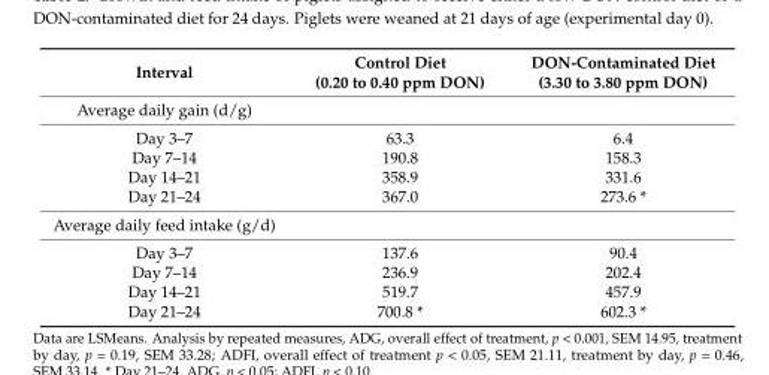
<table><thead><tr><td>Interval</td><td>Control Diet (0.20 to 0.40 ppm DON)</td><td>DON-Contaminated Diet (3.30 to 3.80 ppm DON)</td></tr></thead><tbody><tr><td colspan="3">Average daily gain (d/g)</td></tr><tr><td>Day 3–7</td><td>63.3</td><td>6.4</td></tr><tr><td>Day 7–14</td><td>190.8</td><td>158.3</td></tr><tr><td>Day 14–21</td><td>358.9</td><td>331.6</td></tr><tr><td>Day 21–24</td><td>367.0</td><td>273.6 *</td></tr><tr><td colspan="3">Average daily feed intake (g/d)</td></tr><tr><td>Day 3–7</td><td>137.6</td><td>90.4</td></tr><tr><td>Day 7–14</td><td>236.9</td><td>202.4</td></tr><tr><td>Day 14–21</td><td>519.7</td><td>457.9</td></tr><tr><td>Day 21–24</td><td>700.8 *</td><td>602.3 *</td></tr></tbody></table>